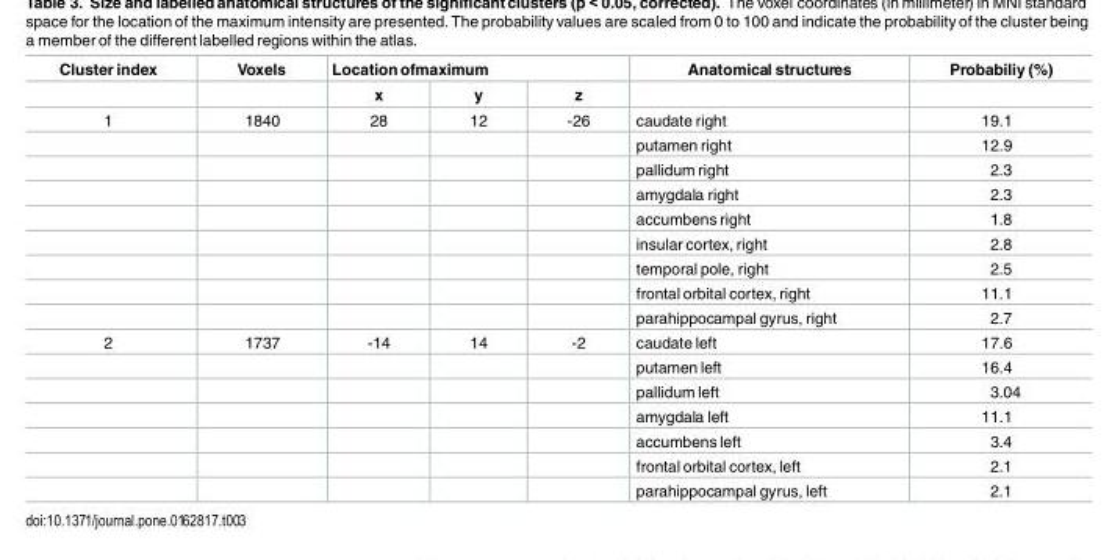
<table><thead><tr><td rowspan="2">Cluster index</td><td rowspan="2">Voxels</td><td colspan="3">Location ofmaximum</td><td rowspan="2">Anatomical structures</td><td rowspan="2">Probabiliy (%)</td></tr><tr><td>x</td><td>y</td><td>z</td></tr></thead><tbody><tr><td rowspan="9">1</td><td>1840</td><td>28</td><td>12</td><td>-26</td><td>caudate right</td><td>19.1</td></tr><tr><td></td><td></td><td></td><td></td><td>putamen right</td><td>12.9</td></tr><tr><td></td><td></td><td></td><td></td><td>pallidum right</td><td>2.3</td></tr><tr><td></td><td></td><td></td><td></td><td>amygdala right</td><td>2.3</td></tr><tr><td></td><td></td><td></td><td></td><td>accumbens right</td><td>1.8</td></tr><tr><td></td><td></td><td></td><td></td><td>insular cortex, right</td><td>2.8</td></tr><tr><td></td><td></td><td></td><td></td><td>temporal pole, right</td><td>2.5</td></tr><tr><td></td><td></td><td></td><td></td><td>frontal orbital cortex, right</td><td>11.1</td></tr><tr><td></td><td></td><td></td><td></td><td>parahippocampal gyrus, right</td><td>2.7</td></tr><tr><td rowspan="7">2</td><td>1737</td><td>-14</td><td>14</td><td>-2</td><td>caudate left</td><td>17.6</td></tr><tr><td></td><td></td><td></td><td></td><td>putamen left</td><td>16.4</td></tr><tr><td></td><td></td><td></td><td></td><td>pallidum left</td><td>3.04</td></tr><tr><td></td><td></td><td></td><td></td><td>amygdala left</td><td>11.1</td></tr><tr><td></td><td></td><td></td><td></td><td>accumbens left</td><td>3.4</td></tr><tr><td></td><td></td><td></td><td></td><td>frontal orbital cortex, left</td><td>2.1</td></tr><tr><td></td><td></td><td></td><td></td><td>parahippocampal gyrus, left</td><td>2.1</td></tr></tbody></table>